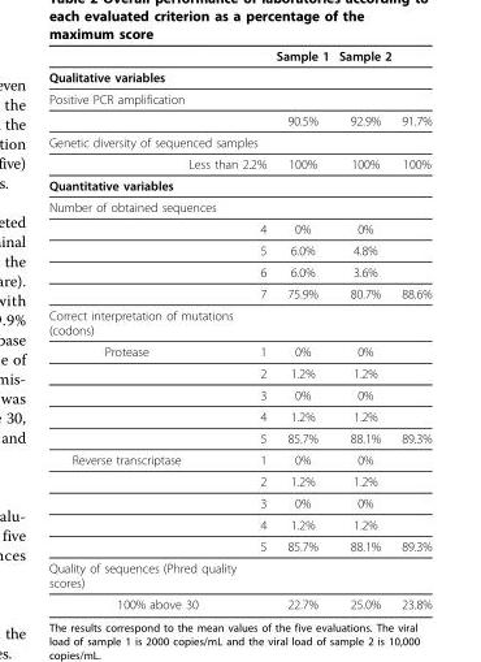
<table><thead><tr><td></td><td></td><td>Sample 1</td><td>Sample 2</td><td></td></tr></thead><tbody><tr><td colspan="5">Qualitative variables</td></tr><tr><td colspan="5">Positive PCR amplification</td></tr><tr><td></td><td></td><td>90.5%</td><td>92.9%</td><td>91.7%</td></tr><tr><td colspan="5">Genetic diversity of sequenced samples</td></tr><tr><td colspan="2">Less than 2.2%</td><td>100%</td><td>100%</td><td>100%</td></tr><tr><td colspan="5">Quantitative variables</td></tr><tr><td colspan="5">Number of obtained sequences</td></tr><tr><td colspan="2">4</td><td>0%</td><td>0%</td><td></td></tr><tr><td colspan="2">5</td><td>6.0%</td><td>4.8%</td><td></td></tr><tr><td colspan="2">6</td><td>6.0%</td><td>3.6%</td><td></td></tr><tr><td colspan="2">7</td><td>75.9%</td><td>80.7%</td><td>88.6%</td></tr><tr><td colspan="5">Correct interpretation of mutations (codons)</td></tr><tr><td>Protease</td><td>1</td><td>0%</td><td>0%</td><td></td></tr><tr><td colspan="2">2</td><td>1.2%</td><td>1.2%</td><td></td></tr><tr><td colspan="2">3</td><td>0%</td><td>0%</td><td></td></tr><tr><td colspan="2">4</td><td>1.2%</td><td>1.2%</td><td></td></tr><tr><td colspan="2">5</td><td>85.7%</td><td>88.1%</td><td>89.3%</td></tr><tr><td>Reverse transcriptase</td><td>1</td><td>0%</td><td>0%</td><td></td></tr><tr><td colspan="2">2</td><td>1.2%</td><td>1.2%</td><td></td></tr><tr><td colspan="2">3</td><td>0%</td><td>0%</td><td></td></tr><tr><td colspan="2">4</td><td>1.2%</td><td>1.2%</td><td></td></tr><tr><td colspan="2">5</td><td>85.7%</td><td>88.1%</td><td>89.3%</td></tr><tr><td colspan="5">Quality of sequences (Phred quality scores)</td></tr><tr><td colspan="2">100% above 30</td><td>22.7%</td><td>25.0%</td><td>23.8%</td></tr></tbody></table>